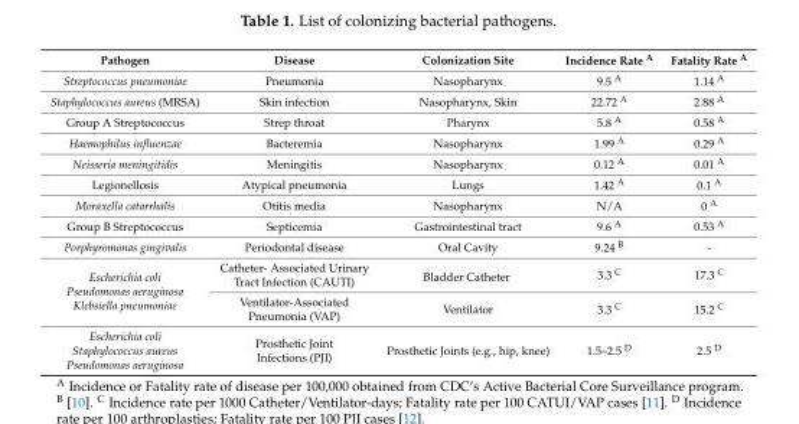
<table><thead><tr><td>Pathogen</td><td>Disease</td><td>Colonization Site</td><td>Incidence Rate <sup>A</sup></td><td>Fatality Rate <sup>A</sup></td></tr></thead><tbody><tr><td>Streptococcus pneumoniae</td><td>Pneumonia</td><td>Nasopharynx</td><td>9.5 <sup>A</sup></td><td>1.14 <sup>A</sup></td></tr><tr><td>Staphylococcus aureus (MRSA)</td><td>Skin infection</td><td>Nasopharynx, Skin</td><td>22.72 <sup>A</sup></td><td>2.88 <sup>A</sup></td></tr><tr><td>Group A Streptococcus</td><td>Strep throat</td><td>Pharynx</td><td>5.8 <sup>A</sup></td><td>0.58 <sup>A</sup></td></tr><tr><td>Haemophilus influenzae</td><td>Bacteremia</td><td>Nasopharynx</td><td>1.99 <sup>A</sup></td><td>0.29 <sup>A</sup></td></tr><tr><td>Neisseria meningitidis</td><td>Meningitis</td><td>Nasopharynx</td><td>0.12 <sup>A</sup></td><td>0.01 <sup>A</sup></td></tr><tr><td>Legionellosis</td><td>Atypical pneumonia</td><td>Lungs</td><td>1.42 <sup>A</sup></td><td>0.1 <sup>A</sup></td></tr><tr><td>Moraxella catarrhalis</td><td>Otitis media</td><td>Nasopharynx</td><td>N/A</td><td>0 <sup>A</sup></td></tr><tr><td>Group B Streptococcus</td><td>Septicemia</td><td>Gastrointestinal tract</td><td>9.6 <sup>A</sup></td><td>0.53 <sup>A</sup></td></tr><tr><td>Porphyromonas gingivalis</td><td>Periodontal disease</td><td>Oral Cavity</td><td>9.24 <sup>B</sup></td><td>-</td></tr><tr><td rowspan="2">Escherichia coli Pseudomonas aeruginosa Klebsiella pneumoniae</td><td>Catheter- Associated Urinary Tract Infection (CAUTI)</td><td>Bladder Catheter</td><td>3.3 <sup>C</sup></td><td>17.3 <sup>C</sup></td></tr><tr><td>Ventilator-Associated Pneumonia (VAP)</td><td>Ventilator</td><td>3.3 <sup>C</sup></td><td>15.2 <sup>C</sup></td></tr><tr><td>Escherichia coli Staphylococcus aureus Pseudomonas aeruginosa</td><td>Prosthetic Joint Infections (PJI)</td><td>Prosthetic Joints (e.g., hip, knee)</td><td>1.5–2.5 D</td><td>2.5 <sup>D</sup></td></tr></tbody></table>